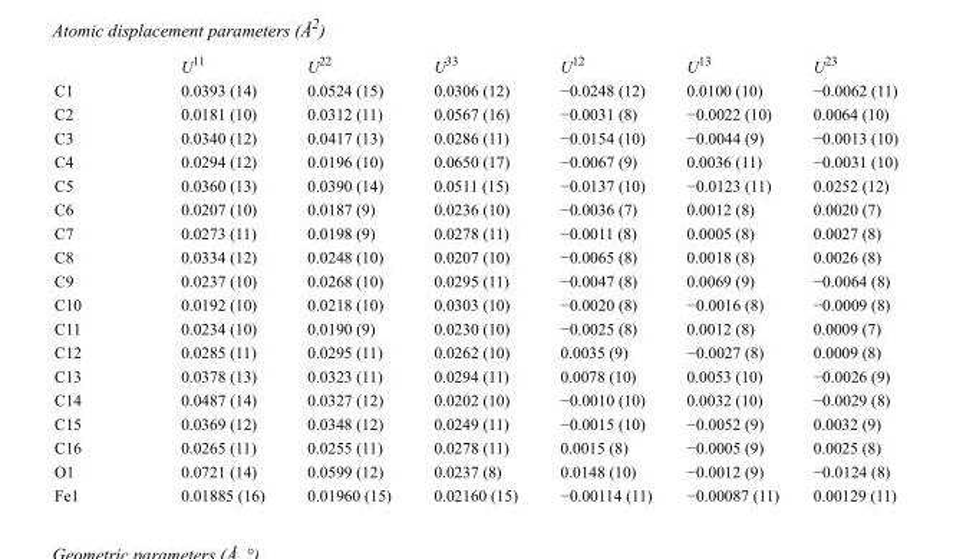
<table><thead><tr><td></td><td>U<sup>11</sup></td><td>U<sup>22</sup></td><td>U<sup>33</sup></td><td>U<sup>12</sup></td><td>U<sup>13</sup></td><td>U<sup>23</sup></td></tr></thead><tbody><tr><td>C1</td><td>0.0393 (14)</td><td>0.0524 (15)</td><td>0.0306 (12)</td><td>−0.0248 (12)</td><td>0.0100 (10)</td><td>−0.0062 (11)</td></tr><tr><td>C2</td><td>0.0181 (10)</td><td>0.0312 (11)</td><td>0.0567 (16)</td><td>−0.0031 (8)</td><td>−0.0022 (10)</td><td>0.0064 (10)</td></tr><tr><td>C3</td><td>0.0340 (12)</td><td>0.0417 (13)</td><td>0.0286 (11)</td><td>−0.0154 (10)</td><td>−0.0044 (9)</td><td>−0.0013 (10)</td></tr><tr><td>C4</td><td>0.0294 (12)</td><td>0.0196 (10)</td><td>0.0650 (17)</td><td>−0.0067 (9)</td><td>0.0036 (11)</td><td>−0.0031 (10)</td></tr><tr><td>C5</td><td>0.0360 (13)</td><td>0.0390 (14)</td><td>0.0511 (15)</td><td>−0.0137 (10)</td><td>−0.0123 (11)</td><td>0.0252 (12)</td></tr><tr><td>C6</td><td>0.0207 (10)</td><td>0.0187 (9)</td><td>0.0236 (10)</td><td>−0.0036 (7)</td><td>0.0012 (8)</td><td>0.0020 (7)</td></tr><tr><td>C7</td><td>0.0273 (11)</td><td>0.0198 (9)</td><td>0.0278 (11)</td><td>−0.0011 (8)</td><td>0.0005 (8)</td><td>0.0027 (8)</td></tr><tr><td>C8</td><td>0.0334 (12)</td><td>0.0248 (10)</td><td>0.0207 (10)</td><td>−0.0065 (8)</td><td>0.0018 (8)</td><td>0.0026 (8)</td></tr><tr><td>C9</td><td>0.0237 (10)</td><td>0.0268 (10)</td><td>0.0295 (11)</td><td>−0.0047 (8)</td><td>0.0069 (9)</td><td>−0.0064 (8)</td></tr><tr><td>C10</td><td>0.0192 (10)</td><td>0.0218 (10)</td><td>0.0303 (10)</td><td>−0.0020 (8)</td><td>−0.0016 (8)</td><td>−0.0009 (8)</td></tr><tr><td>C11</td><td>0.0234 (10)</td><td>0.0190 (9)</td><td>0.0230 (10)</td><td>−0.0025 (8)</td><td>0.0012 (8)</td><td>0.0009 (7)</td></tr><tr><td>C12</td><td>0.0285 (11)</td><td>0.0295 (11)</td><td>0.0262 (10)</td><td>0.0035 (9)</td><td>−0.0027 (8)</td><td>0.0009 (8)</td></tr><tr><td>C13</td><td>0.0378 (13)</td><td>0.0323 (11)</td><td>0.0294 (11)</td><td>0.0078 (10)</td><td>0.0053 (10)</td><td>−0.0026 (9)</td></tr><tr><td>C14</td><td>0.0487 (14)</td><td>0.0327 (12)</td><td>0.0202 (10)</td><td>−0.0010 (10)</td><td>0.0032 (10)</td><td>−0.0029 (8)</td></tr><tr><td>C15</td><td>0.0369 (12)</td><td>0.0348 (12)</td><td>0.0249 (11)</td><td>−0.0015 (10)</td><td>−0.0052 (9)</td><td>0.0032 (9)</td></tr><tr><td>C16</td><td>0.0265 (11)</td><td>0.0255 (11)</td><td>0.0278 (11)</td><td>0.0015 (8)</td><td>−0.0005 (9)</td><td>0.0025 (8)</td></tr><tr><td>O1</td><td>0.0721 (14)</td><td>0.0599 (12)</td><td>0.0237 (8)</td><td>0.0148 (10)</td><td>−0.0012 (9)</td><td>−0.0124 (8)</td></tr><tr><td>Fe1</td><td>0.01885 (16)</td><td>0.01960 (15)</td><td>0.02160 (15)</td><td>−0.00114 (11)</td><td>−0.00087 (11)</td><td>0.00129 (11)</td></tr></tbody></table>